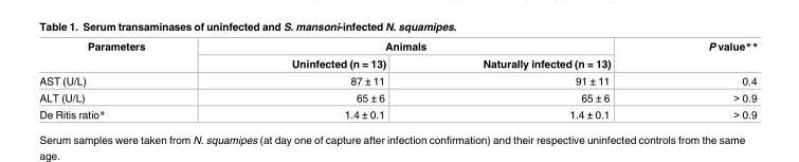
<table><thead><tr><td rowspan="2">Parameters</td><td colspan="2">Animals</td><td rowspan="2">P value**</td></tr><tr><td>Uninfected (n = 13)</td><td>Naturally infected (n = 13)</td></tr></thead><tbody><tr><td>AST (U/L)</td><td>87 ± 11</td><td>91 ± 11</td><td>0.4</td></tr><tr><td>ALT (U/L)</td><td>65 ± 6</td><td>65 ± 6</td><td>&gt; 0.9</td></tr><tr><td>De Ritis ratio*</td><td>1.4 ± 0.1</td><td>1.4 ± 0.1</td><td>&gt; 0.9</td></tr></tbody></table>